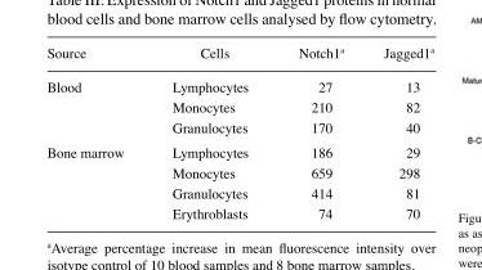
<table><thead><tr><td>Source</td><td>Cells</td><td>Notch1<sup>a</sup></td><td>Jagged1<sup>a</sup></td></tr></thead><tbody><tr><td rowspan="3">Blood</td><td>Lymphocytes</td><td>27</td><td>13</td></tr><tr><td>Monocytes</td><td>210</td><td>82</td></tr><tr><td>Granulocytes</td><td>170</td><td>40</td></tr><tr><td rowspan="4">Bone marrow</td><td>Lymphocytes</td><td>186</td><td>29</td></tr><tr><td>Monocytes</td><td>659</td><td>298</td></tr><tr><td>Granulocytes</td><td>414</td><td>81</td></tr><tr><td>Erythroblasts</td><td>74</td><td>70</td></tr></tbody></table>